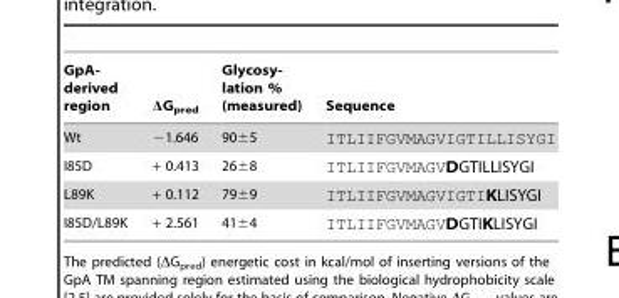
<table><thead><tr><td>GpA- derived region</td><td>ΔG<sub>pred</sub></td><td>Glycosy- lation % (measured)</td><td>Sequence</td></tr></thead><tbody><tr><td>Wt</td><td>−1.646</td><td>90±5</td><td>ITLIIFGVMAGVIGTILLISYGI</td></tr><tr><td>I85D</td><td>+ 0.413</td><td>26±8</td><td>ITLIIFGVMAGVDGTILLISYGI</td></tr><tr><td>L89K</td><td>+ 0.112</td><td>79±9</td><td>ITLIIFGVMAGVIGTIKLISYGI</td></tr><tr><td>I85D/L89K</td><td>+ 2.561</td><td>41±4</td><td>ITLIIFGVMAGVDGTIKLISYGI</td></tr></tbody></table>